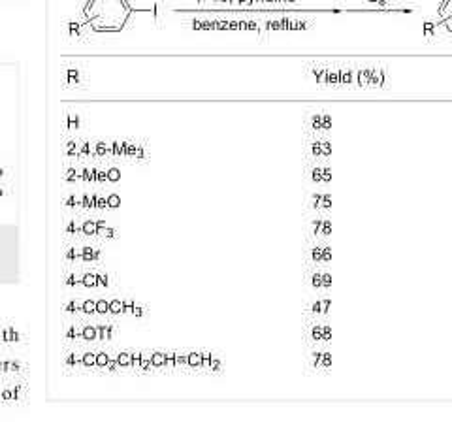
<table><tbody><tr><td>R</td><td>Yield (%)</td></tr><tr><td>H</td><td>88</td></tr><tr><td>2,4,6-Me<sub>3</sub></td><td>63</td></tr><tr><td>2-MeO</td><td>65</td></tr><tr><td>4-MeO</td><td>75</td></tr><tr><td>4-CF<sub>3</sub></td><td>78</td></tr><tr><td>4-Br</td><td>66</td></tr><tr><td>4-CN</td><td>69</td></tr><tr><td>4-COCH<sub>3</sub></td><td>47</td></tr><tr><td>4-OTf</td><td>68</td></tr><tr><td>4-CO<sub>2</sub>CH<sub>2</sub>CH=CH<sub>2</sub></td><td>78</td></tr></tbody></table>